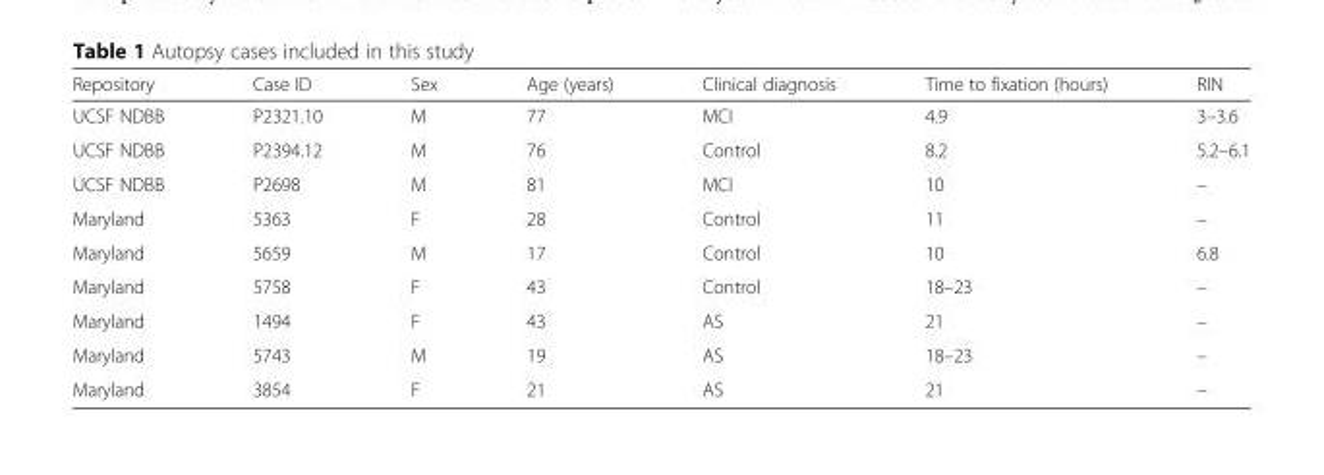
<table><thead><tr><td>Repository</td><td>Case ID</td><td>Sex</td><td>Age (years)</td><td>Clinical diagnosis</td><td>Time to fixation (hours)</td><td>RIN</td></tr></thead><tbody><tr><td>UCSF NDBB</td><td>P2321.10</td><td>M</td><td>77</td><td>MCI</td><td>4.9</td><td>3–3.6</td></tr><tr><td>UCSF NDBB</td><td>P2394.12</td><td>M</td><td>76</td><td>Control</td><td>8.2</td><td>5.2–6.1</td></tr><tr><td>UCSF NDBB</td><td>P2698</td><td>M</td><td>81</td><td>MCI</td><td>10</td><td>–</td></tr><tr><td>Maryland</td><td>5363</td><td>F</td><td>28</td><td>Control</td><td>11</td><td>–</td></tr><tr><td>Maryland</td><td>5659</td><td>M</td><td>17</td><td>Control</td><td>10</td><td>6.8</td></tr><tr><td>Maryland</td><td>5758</td><td>F</td><td>43</td><td>Control</td><td>18–23</td><td>–</td></tr><tr><td>Maryland</td><td>1494</td><td>F</td><td>43</td><td>AS</td><td>21</td><td>–</td></tr><tr><td>Maryland</td><td>5743</td><td>M</td><td>19</td><td>AS</td><td>18–23</td><td>–</td></tr><tr><td>Maryland</td><td>3854</td><td>F</td><td>21</td><td>AS</td><td>21</td><td>–</td></tr></tbody></table>